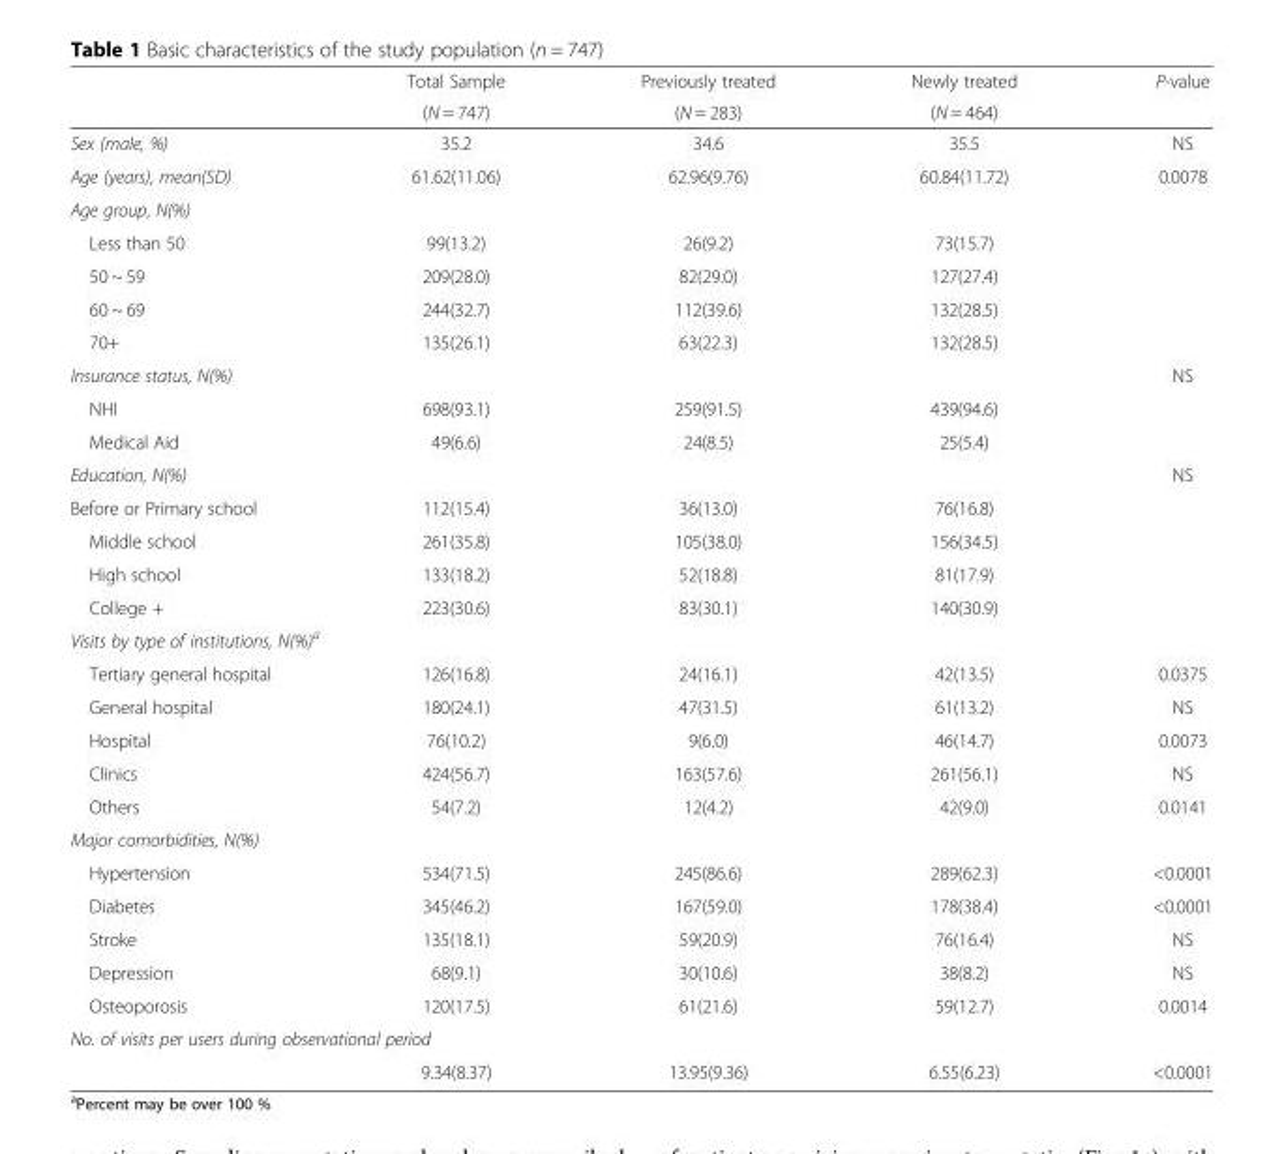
<table><thead><tr><td rowspan="2"></td><td rowspan="2">Total Sample (N = 747)</td><td rowspan="2">Previously treated (N = 283)</td><td rowspan="2">Newly treated (N = 464)</td><td rowspan="2">P-value</td></tr><tr></tr></thead><tbody><tr><td>Sex (male, %)</td><td>35.2</td><td>34.6</td><td>35.5</td><td>NS</td></tr><tr><td>Age (years), mean(SD)</td><td>61.62(11.06)</td><td>62.96(9.76)</td><td>60.84(11.72)</td><td>0.0078</td></tr><tr><td colspan="5">Age group, N(%)</td></tr><tr><td>Less than 50</td><td>99(13.2)</td><td>26(9.2)</td><td>73(15.7)</td><td></td></tr><tr><td>50 ~ 59</td><td>209(28.0)</td><td>82(29.0)</td><td>127(27.4)</td><td></td></tr><tr><td>60 ~ 69</td><td>244(32.7)</td><td>112(39.6)</td><td>132(28.5)</td><td></td></tr><tr><td>70+</td><td>135(26.1)</td><td>63(22.3)</td><td>132(28.5)</td><td></td></tr><tr><td>Insurance status, N(%)</td><td></td><td></td><td></td><td>NS</td></tr><tr><td>NHI</td><td>698(93.1)</td><td>259(91.5)</td><td>439(94.6)</td><td></td></tr><tr><td>Medical Aid</td><td>49(6.6)</td><td>24(8.5)</td><td>25(5.4)</td><td></td></tr><tr><td>Education, N(%)</td><td></td><td></td><td></td><td>NS</td></tr><tr><td>Before or Primary school</td><td>112(15.4)</td><td>36(13.0)</td><td>76(16.8)</td><td></td></tr><tr><td>Middle school</td><td>261(35.8)</td><td>105(38.0)</td><td>156(34.5)</td><td></td></tr><tr><td>High school</td><td>133(18.2)</td><td>52(18.8)</td><td>81(17.9)</td><td></td></tr><tr><td>College +</td><td>223(30.6)</td><td>83(30.1)</td><td>140(30.9)</td><td></td></tr><tr><td colspan="5">Visits by type of institutions, N(%)<sup>a</sup></td></tr><tr><td>Tertiary general hospital</td><td>126(16.8)</td><td>24(16.1)</td><td>42(13.5)</td><td>0.0375</td></tr><tr><td>General hospital</td><td>180(24.1)</td><td>47(31.5)</td><td>61(13.2)</td><td>NS</td></tr><tr><td>Hospital</td><td>76(10.2)</td><td>9(6.0)</td><td>46(14.7)</td><td>0.0073</td></tr><tr><td>Clinics</td><td>424(56.7)</td><td>163(57.6)</td><td>261(56.1)</td><td>NS</td></tr><tr><td>Others</td><td>54(7.2)</td><td>12(4.2)</td><td>42(9.0)</td><td>0.0141</td></tr><tr><td colspan="5">Major comorbidities, N(%)</td></tr><tr><td>Hypertension</td><td>534(71.5)</td><td>245(86.6)</td><td>289(62.3)</td><td>&lt;0.0001</td></tr><tr><td>Diabetes</td><td>345(46.2)</td><td>167(59.0)</td><td>178(38.4)</td><td>&lt;0.0001</td></tr><tr><td>Stroke</td><td>135(18.1)</td><td>59(20.9)</td><td>76(16.4)</td><td>NS</td></tr><tr><td>Depression</td><td>68(9.1)</td><td>30(10.6)</td><td>38(8.2)</td><td>NS</td></tr><tr><td>Osteoporosis</td><td>120(17.5)</td><td>61(21.6)</td><td>59(12.7)</td><td>0.0014</td></tr><tr><td colspan="5">No. of visits per users during observational period</td></tr><tr><td></td><td>9.34(8.37)</td><td>13.95(9.36)</td><td>6.55(6.23)</td><td>&lt;0.0001</td></tr></tbody></table>